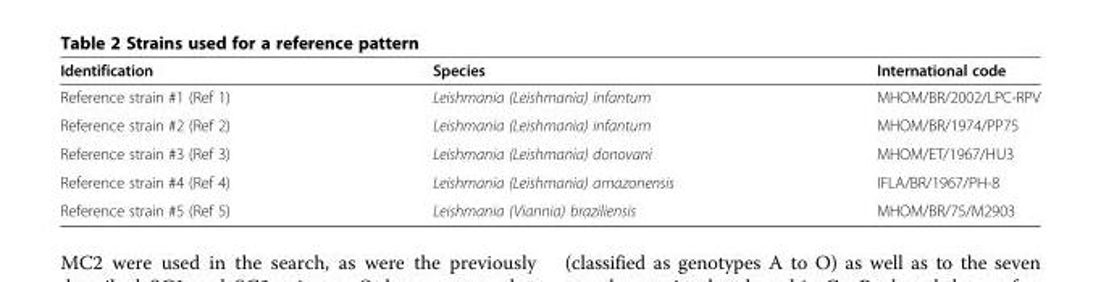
<table><thead><tr><td>Identification</td><td>Species</td><td>International code</td></tr></thead><tbody><tr><td>Reference strain #1 (Ref 1)</td><td>Leishmania (Leishmania) infantum</td><td>MHOM/BR/2002/LPC-RPV</td></tr><tr><td>Reference strain #2 (Ref 2)</td><td>Leishmania (Leishmania) infantum</td><td>MHOM/BR/1974/PP75</td></tr><tr><td>Reference strain #3 (Ref 3)</td><td>Leishmania (Leishmania) donovani</td><td>MHOM/ET/1967/HU3</td></tr><tr><td>Reference strain #4 (Ref 4)</td><td>Leishmania (Leishmania) amazonensis</td><td>IFLA/BR/1967/PH-8</td></tr><tr><td>Reference strain #5 (Ref 5)</td><td>Leishmania (Viannia) braziliensis</td><td>MHOM/BR/75/M2903</td></tr></tbody></table>